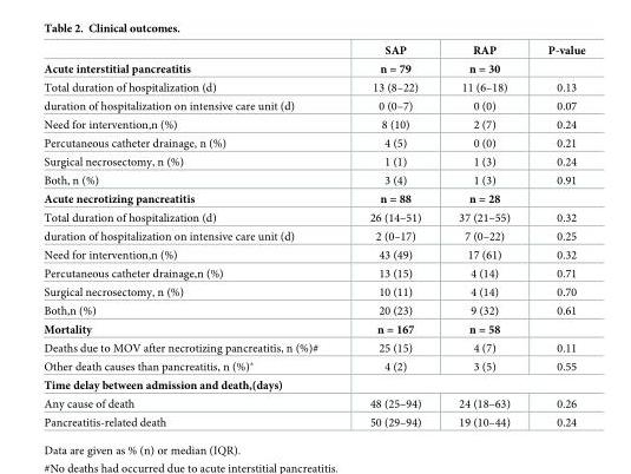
<table><thead><tr><td></td><td>SAP</td><td>RAP</td><td>P-value</td></tr></thead><tbody><tr><td>Acute interstitial pancreatitis</td><td>n = 79</td><td>n = 30</td><td></td></tr><tr><td>Total duration of hospitalization (d)</td><td>13 (8–22)</td><td>11 (6–18)</td><td>0.13</td></tr><tr><td>duration of hospitalization on intensive care unit (d)</td><td>0 (0–7)</td><td>0 (0)</td><td>0.07</td></tr><tr><td>Need for intervention,n (%)</td><td>8 (10)</td><td>2 (7)</td><td>0.24</td></tr><tr><td>Percutaneous catheter drainage, n (%)</td><td>4 (5)</td><td>0 (0)</td><td>0.21</td></tr><tr><td>Surgical necrosectomy, n (%)</td><td>1 (1)</td><td>1 (3)</td><td>0.24</td></tr><tr><td>Both, n (%)</td><td>3 (4)</td><td>1 (3)</td><td>0.91</td></tr><tr><td>Acute necrotizing pancreatitis</td><td>n = 88</td><td>n = 28</td><td></td></tr><tr><td>Total duration of hospitalization (d)</td><td>26 (14–51)</td><td>37 (21–55)</td><td>0.32</td></tr><tr><td>duration of hospitalization on intensive care unit (d)</td><td>2 (0–17)</td><td>7 (0–22)</td><td>0.25</td></tr><tr><td>Need for intervention,n (%)</td><td>43 (49)</td><td>17 (61)</td><td>0.32</td></tr><tr><td>Percutaneous catheter drainage,n (%)</td><td>13 (15)</td><td>4 (14)</td><td>0.71</td></tr><tr><td>Surgical necrosectomy, n (%)</td><td>10 (11)</td><td>4 (14)</td><td>0.70</td></tr><tr><td>Both,n (%)</td><td>20 (23)</td><td>9 (32)</td><td>0.61</td></tr><tr><td>Mortality</td><td>n = 167</td><td>n = 58</td><td></td></tr><tr><td>Deaths due to MOV after necrotizing pancreatitis, n (%)#</td><td>25 (15)</td><td>4 (7)</td><td>0.11</td></tr><tr><td>Other death causes than pancreatitis, n (%)*</td><td>4 (2)</td><td>3 (5)</td><td>0.55</td></tr><tr><td colspan="4">Time delay between admission and death,(days)</td></tr><tr><td>Any cause of death</td><td>48 (25–94)</td><td>24 (18–63)</td><td>0.26</td></tr><tr><td>Pancreatitis-related death</td><td>50 (29–94)</td><td>19 (10–44)</td><td>0.24</td></tr></tbody></table>